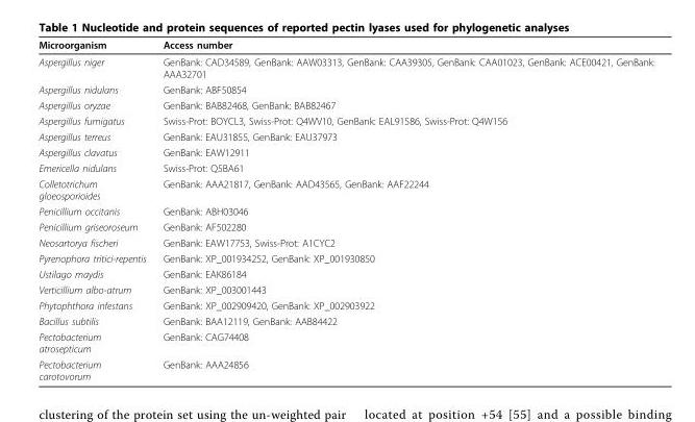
<table><thead><tr><td>Microorganism</td><td>Access number</td></tr></thead><tbody><tr><td>Aspergillus niger</td><td>GenBank: CAD34589, GenBank: AAW03313, GenBank: CAA39305, GenBank: CAA01023, GenBank: ACE00421, GenBank: AAA32701</td></tr><tr><td>Aspergillus nidulans</td><td>GenBank: ABF50854</td></tr><tr><td>Aspergillus oryzae</td><td>GenBank: BAB82468, GenBank: BAB82467</td></tr><tr><td>Aspergillus fumigatus</td><td>Swiss-Prot: BOYCL3, Swiss-Prot: Q4WV10, GenBank: EAL91586, Swiss-Prot: Q4W156</td></tr><tr><td>Aspergillus terreus</td><td>GenBank: EAU31855, GenBank: EAU37973</td></tr><tr><td>Aspergillus clavatus</td><td>GenBank: EAW12911</td></tr><tr><td>Emericella nidulans</td><td>Swiss-Prot: Q5BA61</td></tr><tr><td>Colletotrichum gloeosporioides</td><td>GenBank: AAA21817, GenBank: AAD43565, GenBank: AAF22244</td></tr><tr><td>Penicillium occitanis</td><td>GenBank: ABH03046</td></tr><tr><td>Penicillium griseoroseum</td><td>GenBank: AF502280</td></tr><tr><td>Neosartorya fischeri</td><td>GenBank: EAW17753, Swiss-Prot: A1CYC2</td></tr><tr><td>Pyrenophora tritici-repentis</td><td>GenBank: XP_001934252, GenBank: XP_001930850</td></tr><tr><td>Ustilago maydis</td><td>GenBank: EAK86184</td></tr><tr><td>Verticillium albo-atrum</td><td>GenBank: XP_003001443</td></tr><tr><td>Phytophthora infestans</td><td>GenBank: XP_002909420, GenBank: XP_002903922</td></tr><tr><td>Bacillus subtilis</td><td>GenBank: BAA12119, GenBank: AAB84422</td></tr><tr><td>Pectobacterium atrosepticum</td><td>GenBank: CAG74408</td></tr><tr><td>Pectobacterium carotovorum</td><td>GenBank: AAA24856</td></tr></tbody></table>